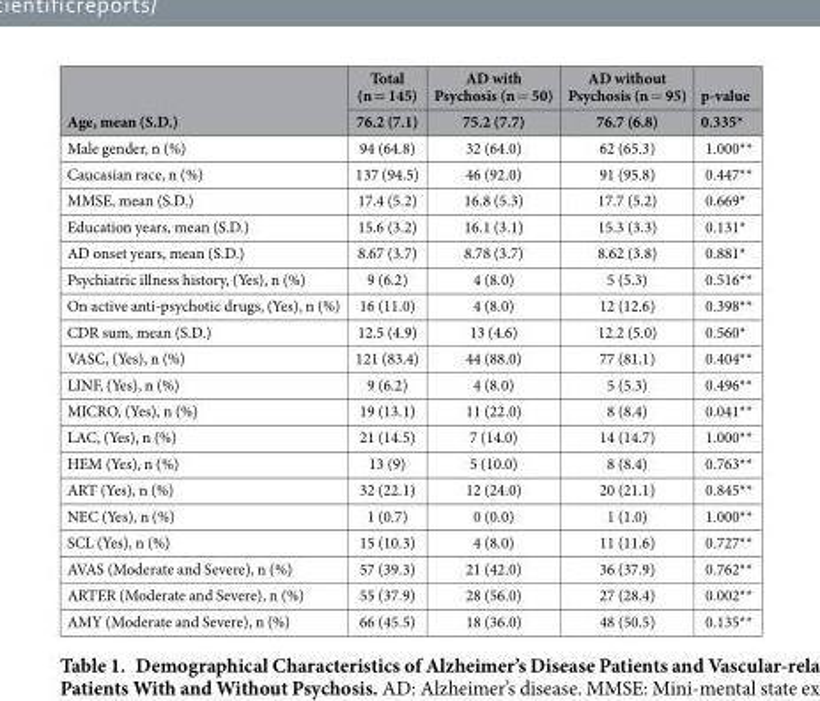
<table><thead><tr><td rowspan="2">Age, mean (S.D.)</td><td rowspan="2">Total (n = 145) 76.2 (7.1)</td><td rowspan="2">AD with Psychosis (n = 50) 75.2 (7.7)</td><td rowspan="2">AD without Psychosis (n = 95) 76.7 (6.8)</td><td rowspan="2">p-value 0.335*</td></tr><tr></tr></thead><tbody><tr><td>Male gender, n (%)</td><td>94 (64.8)</td><td>32 (64.0)</td><td>62 (65.3)</td><td>1.000**</td></tr><tr><td>Caucasian race, n (%)</td><td>137 (94.5)</td><td>46 (92.0)</td><td>91 (95.8)</td><td>0.447**</td></tr><tr><td>MMSE, mean (S.D.)</td><td>17.4 (5.2)</td><td>16.8 (5.3)</td><td>17.7 (5.2)</td><td>0.669*</td></tr><tr><td>Education years, mean (S.D.)</td><td>15.6 (3.2)</td><td>16.1 (3.1)</td><td>15.3 (3.3)</td><td>0.131*</td></tr><tr><td>AD onset years, mean (S.D.)</td><td>8.67 (3.7)</td><td>8.78 (3.7)</td><td>8.62 (3.8)</td><td>0.881*</td></tr><tr><td>Psychiatric illness history, (Yes), n (%)</td><td>9 (6.2)</td><td>4 (8.0)</td><td>5 (5.3)</td><td>0.516**</td></tr><tr><td>On active anti-psychotic drugs, (Yes), n (%)</td><td>16 (11.0)</td><td>4 (8.0)</td><td>12 (12.6)</td><td>0.398**</td></tr><tr><td>CDR sum, mean (S.D.)</td><td>12.5 (4.9)</td><td>13 (4.6)</td><td>12.2 (5.0)</td><td>0.560*</td></tr><tr><td>VASC, (Yes), n (%)</td><td>121 (83.4)</td><td>44 (88.0)</td><td>77 (81.1)</td><td>0.404**</td></tr><tr><td>LINF, (Yes), n (%)</td><td>9 (6.2)</td><td>4 (8.0)</td><td>5 (5.3)</td><td>0.496**</td></tr><tr><td>MICRO, (Yes), n (%)</td><td>19 (13.1)</td><td>11 (22.0)</td><td>8 (8.4)</td><td>0.041**</td></tr><tr><td>LAC, (Yes), n (%)</td><td>21 (14.5)</td><td>7 (14.0)</td><td>14 (14.7)</td><td>1.000**</td></tr><tr><td>HEM (Yes), n (%)</td><td>13 (9)</td><td>5 (10.0)</td><td>8 (8.4)</td><td>0.763**</td></tr><tr><td>ART (Yes), n (%)</td><td>32 (22.1)</td><td>12 (24.0)</td><td>20 (21.1)</td><td>0.845**</td></tr><tr><td>NEC (Yes), n (%)</td><td>1 (0.7)</td><td>0 (0.0)</td><td>1 (1.0)</td><td>1.000**</td></tr><tr><td>SCL (Yes), n (%)</td><td>15 (10.3)</td><td>4 (8.0)</td><td>11 (11.6)</td><td>0.727**</td></tr><tr><td>AVAS (Moderate and Severe), n (%)</td><td>57 (39.3)</td><td>21 (42.0)</td><td>36 (37.9)</td><td>0.762**</td></tr><tr><td>ARTER (Moderate and Severe), n (%)</td><td>55 (37.9)</td><td>28 (56.0)</td><td>27 (28.4)</td><td>0.002**</td></tr><tr><td>AMY (Moderate and Severe), n (%)</td><td>66 (45.5)</td><td>18 (36.0)</td><td>48 (50.5)</td><td>0.135**</td></tr></tbody></table>